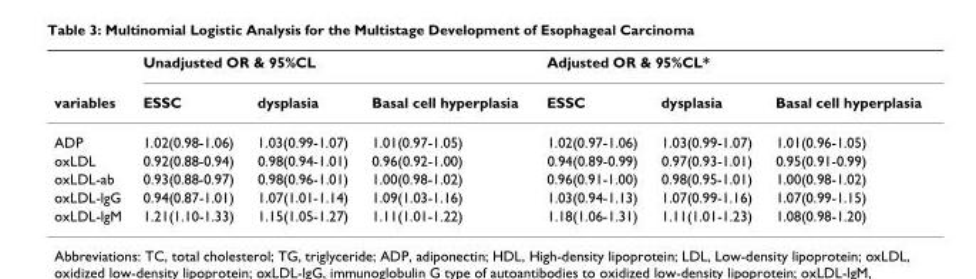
<table><thead><tr><td rowspan="2">variables</td><td colspan="3">Unadjusted OR &amp; 95%CL</td><td colspan="3">Adjusted OR &amp; 95%CL*</td></tr><tr><td>ESSC</td><td>dysplasia</td><td>Basal cell hyperplasia</td><td>ESSC</td><td>dysplasia</td><td>Basal cell hyperplasia</td></tr></thead><tbody><tr><td>ADP</td><td>1.02(0.98-1.06)</td><td>1.03(0.99-1.07)</td><td>1.01(0.97-1.05)</td><td>1.02(0.97-1.06)</td><td>1.03(0.99-1.07)</td><td>1.01(0.96-1.05)</td></tr><tr><td>oxLDL</td><td>0.92(0.88-0.94)</td><td>0.98(0.94-1.01)</td><td>0.96(0.92-1.00)</td><td>0.94(0.89-0.99)</td><td>0.97(0.93-1.01)</td><td>0.95(0.91-0.99)</td></tr><tr><td>oxLDL-ab</td><td>0.93(0.88-0.97)</td><td>0.98(0.96-1.01)</td><td>1.00(0.98-1.02)</td><td>0.96(0.91-1.00)</td><td>0.98(0.95-1.01)</td><td>1.00(0.98-1.02)</td></tr><tr><td>oxLDL-lgG</td><td>0.94(0.87-1.01)</td><td>1.07(1.01-1.14)</td><td>1.09(1.03-1.16)</td><td>1.03(0.94-1.13)</td><td>1.07(0.99-1.16)</td><td>1.07(0.99-1.15)</td></tr><tr><td>oxLDL-lgM</td><td>1.21(1.10-1.33)</td><td>1.15(1.05-1.27)</td><td>1.11(1.01-1.22)</td><td>1.18(1.06-1.31)</td><td>1.11(1.01-1.23)</td><td>1.08(0.98-1.20)</td></tr></tbody></table>